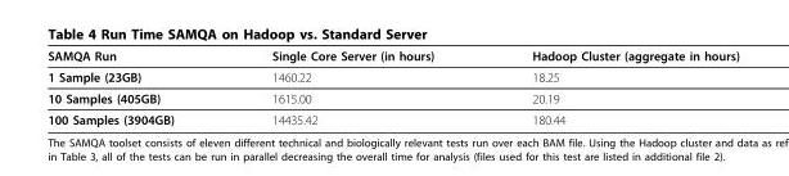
<table><thead><tr><td>SAMQA Run</td><td>Single Core Server (in hours)</td><td>Hadoop Cluster (aggregate in hours)</td></tr></thead><tbody><tr><td>1 Sample (23GB)</td><td>1460.22</td><td>18.25</td></tr><tr><td>10 Samples (405GB)</td><td>1615.00</td><td>20.19</td></tr><tr><td>100 Samples (3904GB)</td><td>14435.42</td><td>180.44</td></tr></tbody></table>